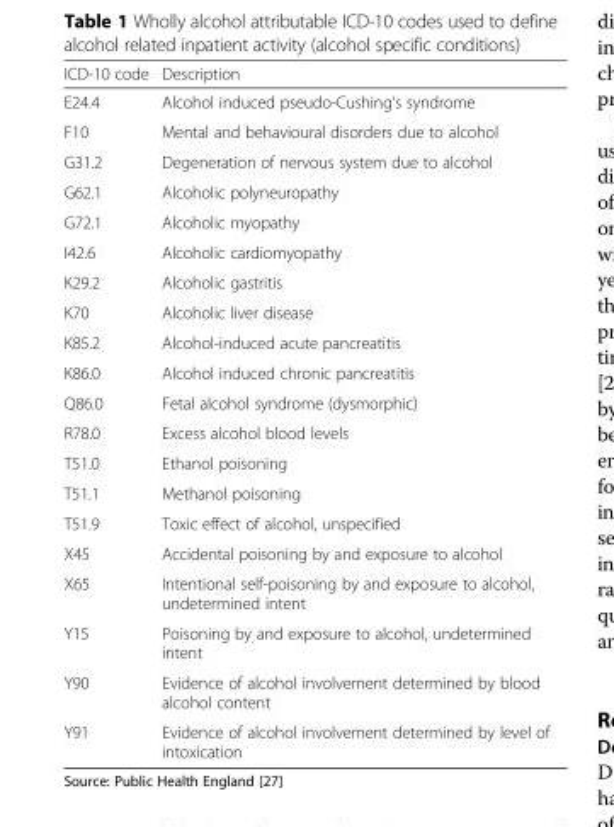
<table><thead><tr><td>ICD-10 code</td><td>Description</td></tr></thead><tbody><tr><td>E24.4</td><td>Alcohol induced pseudo-Cushing’s syndrome</td></tr><tr><td>F10</td><td>Mental and behavioural disorders due to alcohol</td></tr><tr><td>G31.2</td><td>Degeneration of nervous system due to alcohol</td></tr><tr><td>G62.1</td><td>Alcoholic polyneuropathy</td></tr><tr><td>G72.1</td><td>Alcoholic myopathy</td></tr><tr><td>I42.6</td><td>Alcoholic cardiomyopathy</td></tr><tr><td>K29.2</td><td>Alcoholic gastritis</td></tr><tr><td>K70</td><td>Alcoholic liver disease</td></tr><tr><td>K85.2</td><td>Alcohol-induced acute pancreatitis</td></tr><tr><td>K86.0</td><td>Alcohol induced chronic pancreatitis</td></tr><tr><td>Q86.0</td><td>Fetal alcohol syndrome (dysmorphic)</td></tr><tr><td>R78.0</td><td>Excess alcohol blood levels</td></tr><tr><td>T51.0</td><td>Ethanol poisoning</td></tr><tr><td>T51.1</td><td>Methanol poisoning</td></tr><tr><td>T51.9</td><td>Toxic effect of alcohol, unspecified</td></tr><tr><td>X45</td><td>Accidental poisoning by and exposure to alcohol</td></tr><tr><td>X65</td><td>Intentional self-poisoning by and exposure to alcohol, undetermined intent</td></tr><tr><td>Y15</td><td>Poisoning by and exposure to alcohol, undetermined intent</td></tr><tr><td>Y90</td><td>Evidence of alcohol involvement determined by blood alcohol content</td></tr><tr><td>Y91</td><td>Evidence of alcohol involvement determined by level of intoxication</td></tr></tbody></table>